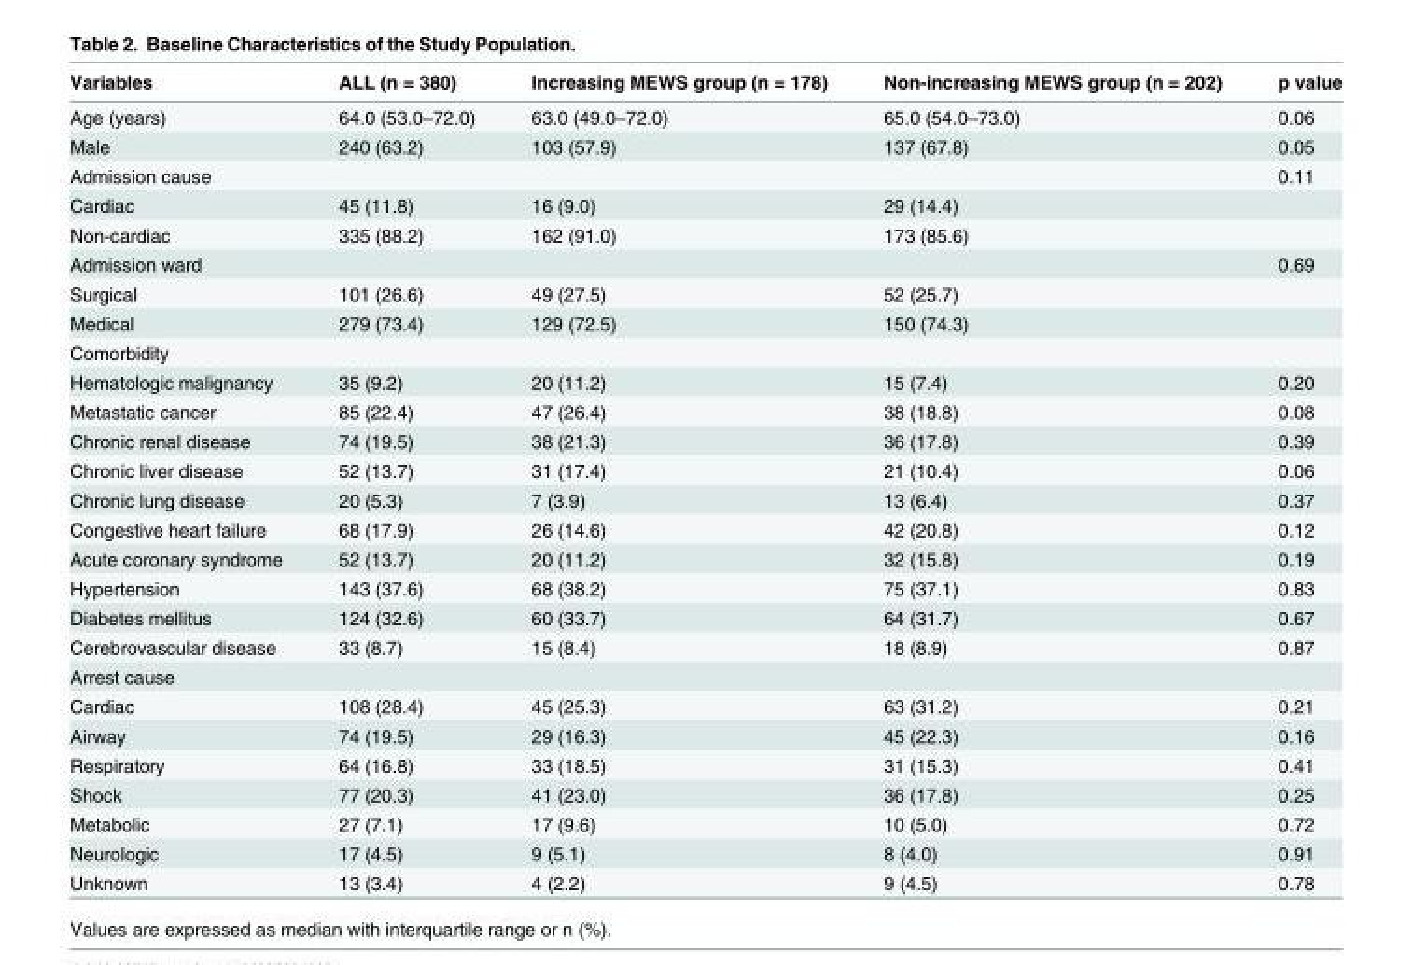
<table><thead><tr><td>Variables</td><td>ALL (n = 380)</td><td>Increasing MEWS group (n = 178)</td><td>Non-increasing MEWS group (n = 202)</td><td>p value</td></tr></thead><tbody><tr><td>Age (years)</td><td>64.0 (53.0–72.0)</td><td>63.0 (49.0–72.0)</td><td>65.0 (54.0–73.0)</td><td>0.06</td></tr><tr><td>Male</td><td>240 (63.2)</td><td>103 (57.9)</td><td>137 (67.8)</td><td>0.05</td></tr><tr><td>Admission cause</td><td></td><td></td><td></td><td>0.11</td></tr><tr><td>Cardiac</td><td>45 (11.8)</td><td>16 (9.0)</td><td>29 (14.4)</td><td></td></tr><tr><td>Non-cardiac</td><td>335 (88.2)</td><td>162 (91.0)</td><td>173 (85.6)</td><td></td></tr><tr><td>Admission ward</td><td></td><td></td><td></td><td>0.69</td></tr><tr><td>Surgical</td><td>101 (26.6)</td><td>49 (27.5)</td><td>52 (25.7)</td><td></td></tr><tr><td>Medical</td><td>279 (73.4)</td><td>129 (72.5)</td><td>150 (74.3)</td><td></td></tr><tr><td colspan="5">Comorbidity</td></tr><tr><td>Hematologic malignancy</td><td>35 (9.2)</td><td>20 (11.2)</td><td>15 (7.4)</td><td>0.20</td></tr><tr><td>Metastatic cancer</td><td>85 (22.4)</td><td>47 (26.4)</td><td>38 (18.8)</td><td>0.08</td></tr><tr><td>Chronic renal disease</td><td>74 (19.5)</td><td>38 (21.3)</td><td>36 (17.8)</td><td>0.39</td></tr><tr><td>Chronic liver disease</td><td>52 (13.7)</td><td>31 (17.4)</td><td>21 (10.4)</td><td>0.06</td></tr><tr><td>Chronic lung disease</td><td>20 (5.3)</td><td>7 (3.9)</td><td>13 (6.4)</td><td>0.37</td></tr><tr><td>Congestive heart failure</td><td>68 (17.9)</td><td>26 (14.6)</td><td>42 (20.8)</td><td>0.12</td></tr><tr><td>Acute coronary syndrome</td><td>52 (13.7)</td><td>20 (11.2)</td><td>32 (15.8)</td><td>0.19</td></tr><tr><td>Hypertension</td><td>143 (37.6)</td><td>68 (38.2)</td><td>75 (37.1)</td><td>0.83</td></tr><tr><td>Diabetes mellitus</td><td>124 (32.6)</td><td>60 (33.7)</td><td>64 (31.7)</td><td>0.67</td></tr><tr><td>Cerebrovascular disease</td><td>33 (8.7)</td><td>15 (8.4)</td><td>18 (8.9)</td><td>0.87</td></tr><tr><td colspan="5">Arrest cause</td></tr><tr><td>Cardiac</td><td>108 (28.4)</td><td>45 (25.3)</td><td>63 (31.2)</td><td>0.21</td></tr><tr><td>Airway</td><td>74 (19.5)</td><td>29 (16.3)</td><td>45 (22.3)</td><td>0.16</td></tr><tr><td>Respiratory</td><td>64 (16.8)</td><td>33 (18.5)</td><td>31 (15.3)</td><td>0.41</td></tr><tr><td>Shock</td><td>77 (20.3)</td><td>41 (23.0)</td><td>36 (17.8)</td><td>0.25</td></tr><tr><td>Metabolic</td><td>27 (7.1)</td><td>17 (9.6)</td><td>10 (5.0)</td><td>0.72</td></tr><tr><td>Neurologic</td><td>17 (4.5)</td><td>9 (5.1)</td><td>8 (4.0)</td><td>0.91</td></tr><tr><td>Unknown</td><td>13 (3.4)</td><td>4 (2.2)</td><td>9 (4.5)</td><td>0.78</td></tr></tbody></table>